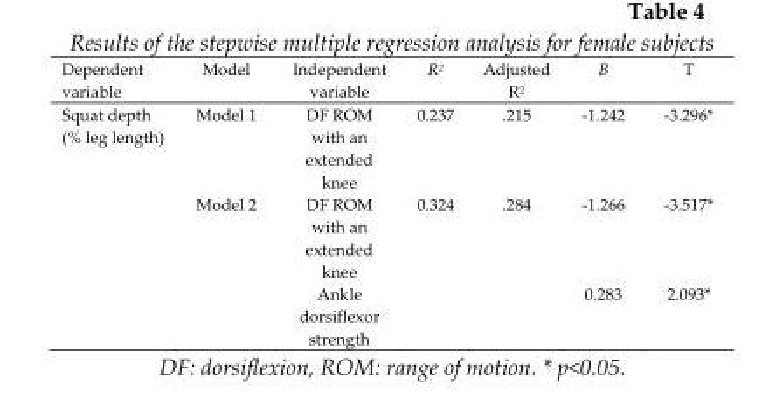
<table><thead><tr><td>Dependent variable</td><td>Model</td><td>Independent variable</td><td>R<sup>2</sup></td><td>Adjusted R<sup>2</sup></td><td>B</td><td>T</td></tr></thead><tbody><tr><td rowspan="3">Squat depth (% leg length)</td><td>Model 1</td><td>DF ROM with an extended knee</td><td>0.237</td><td>.215</td><td>-1.242</td><td>-3.296*</td></tr><tr><td rowspan="2">Model 2</td><td>DF ROM with an extended knee</td><td>0.324</td><td>.284</td><td>-1.266</td><td>-3.517*</td></tr><tr><td>Ankle dorsiflexor strength</td><td></td><td></td><td>0.283</td><td>2.093*</td></tr></tbody></table>